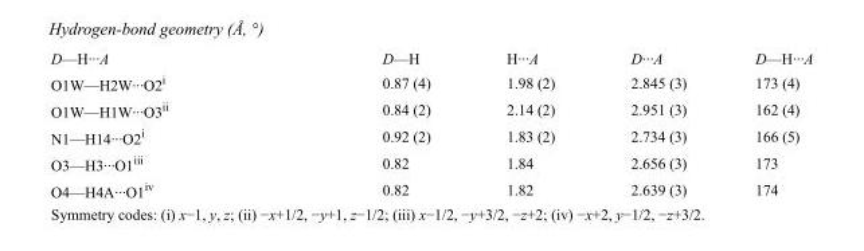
<table><tbody><tr><td>D—H···A</td><td>D—H</td><td>H···A</td><td>D···A</td><td>D—H···A</td></tr><tr><td>O1W—H2W···O2<sup>i</sup></td><td>0.87 (4)</td><td>1.98 (2)</td><td>2.845 (3)</td><td>173 (4)</td></tr><tr><td>O1W—H1W···O3<sup>ii</sup></td><td>0.84 (2)</td><td>2.14 (2)</td><td>2.951 (3)</td><td>162 (4)</td></tr><tr><td>N1—H14···O2<sup>i</sup></td><td>0.92 (2)</td><td>1.83 (2)</td><td>2.734 (3)</td><td>166 (5)</td></tr><tr><td>O3—H3···O1<sup>iii</sup></td><td>0.82</td><td>1.84</td><td>2.656 (3)</td><td>173</td></tr><tr><td>O4—H4A···O1<sup>iv</sup></td><td>0.82</td><td>1.82</td><td>2.639 (3)</td><td>174</td></tr></tbody></table>